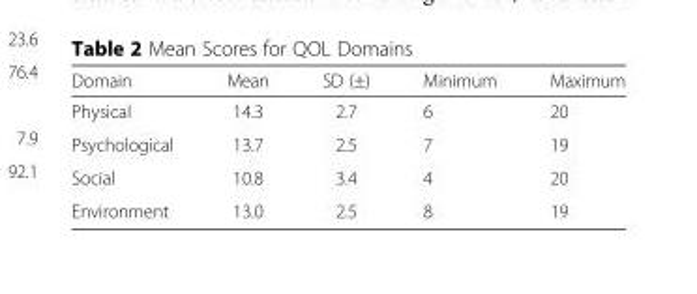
<table><thead><tr><td>Domain</td><td>Mean</td><td>SD (±)</td><td>Minimum</td><td>Maximum</td></tr></thead><tbody><tr><td>Physical</td><td>14.3</td><td>2.7</td><td>6</td><td>20</td></tr><tr><td>Psychological</td><td>13.7</td><td>2.5</td><td>7</td><td>19</td></tr><tr><td>Social</td><td>10.8</td><td>3.4</td><td>4</td><td>20</td></tr><tr><td>Environment</td><td>13.0</td><td>2.5</td><td>8</td><td>19</td></tr></tbody></table>